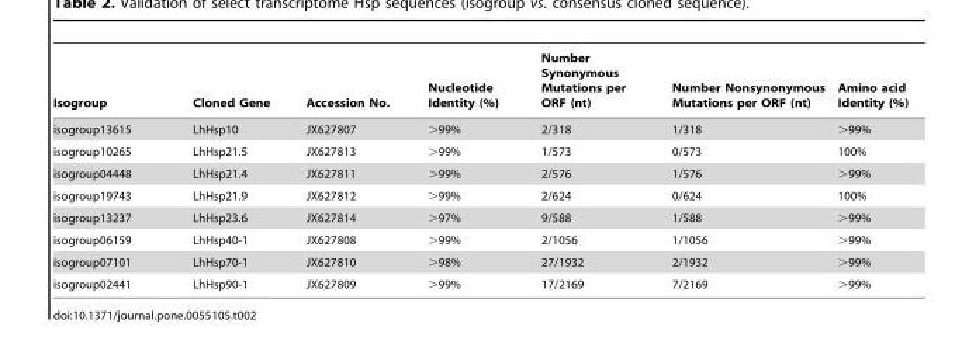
<table><thead><tr><td>Isogroup</td><td>Cloned Gene</td><td>Accession No.</td><td>Nucleotide Identity (%)</td><td>Number Synonymous Mutations per ORF (nt)</td><td>Number Nonsynonymous Mutations per ORF (nt)</td><td>Amino acid Identity (%)</td></tr></thead><tbody><tr><td>isogroup13615</td><td>LhHsp10</td><td>JX627807</td><td>&gt;99%</td><td>2/318</td><td>1/318</td><td>&gt;99%</td></tr><tr><td>isogroup10265</td><td>LhHsp21.5</td><td>JX627813</td><td>&gt;99%</td><td>1/573</td><td>0/573</td><td>100%</td></tr><tr><td>isogroup04448</td><td>LhHsp21.4</td><td>JX627811</td><td>&gt;99%</td><td>2/576</td><td>1/576</td><td>&gt;99%</td></tr><tr><td>isogroup19743</td><td>LhHsp21.9</td><td>JX627812</td><td>&gt;99%</td><td>2/624</td><td>0/624</td><td>100%</td></tr><tr><td>isogroup13237</td><td>LhHsp23.6</td><td>JX627814</td><td>&gt;97%</td><td>9/588</td><td>1/588</td><td>&gt;99%</td></tr><tr><td>isogroup06159</td><td>LhHsp40-1</td><td>JX627808</td><td>&gt;99%</td><td>2/1056</td><td>1/1056</td><td>&gt;99%</td></tr><tr><td>isogroup07101</td><td>LhHsp70-1</td><td>JX627810</td><td>&gt;98%</td><td>27/1932</td><td>2/1932</td><td>&gt;99%</td></tr><tr><td>isogroup02441</td><td>LhHsp90-1</td><td>JX627809</td><td>&gt;99%</td><td>17/2169</td><td>7/2169</td><td>&gt;99%</td></tr></tbody></table>